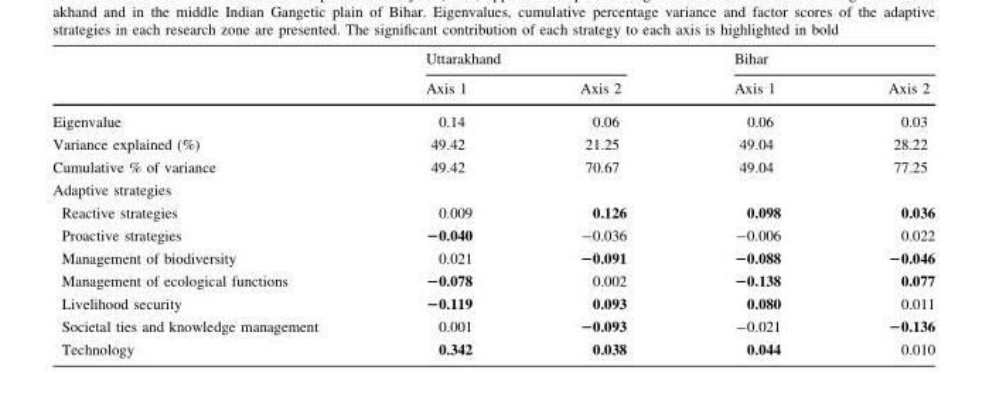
<table><thead><tr><td rowspan="2"></td><td colspan="2">Uttarakhand</td><td colspan="2">Bihar</td></tr><tr><td>Axis 1</td><td>Axis 2</td><td>Axis 1</td><td>Axis 2</td></tr></thead><tbody><tr><td>Eigenvalue</td><td>0.14</td><td>0.06</td><td>0.06</td><td>0.03</td></tr><tr><td>Variance explained (%)</td><td>49.42</td><td>21.25</td><td>49.04</td><td>28.22</td></tr><tr><td>Cumulative % of variance</td><td>49.42</td><td>70.67</td><td>49.04</td><td>77.25</td></tr><tr><td colspan="5">Adaptive strategies</td></tr><tr><td>Reactive strategies</td><td>0.009</td><td>0.126</td><td>0.098</td><td>0.036</td></tr><tr><td>Proactive strategies</td><td>−0.040</td><td>-0.036</td><td>-0.006</td><td>0.022</td></tr><tr><td>Management of biodiversity</td><td>0.021</td><td>−0.091</td><td>−0.088</td><td>−0.046</td></tr><tr><td>Management of ecological functions</td><td>−0.078</td><td>0.002</td><td>−0.138</td><td>0.077</td></tr><tr><td>Livelihood security</td><td>−0.119</td><td>0.093</td><td>0.080</td><td>0.011</td></tr><tr><td>Societal ties and knowledge management</td><td>0.001</td><td>−0.093</td><td>-0.021</td><td>−0.136</td></tr><tr><td>Technology</td><td>0.342</td><td>0.038</td><td>0.044</td><td>0.010</td></tr></tbody></table>